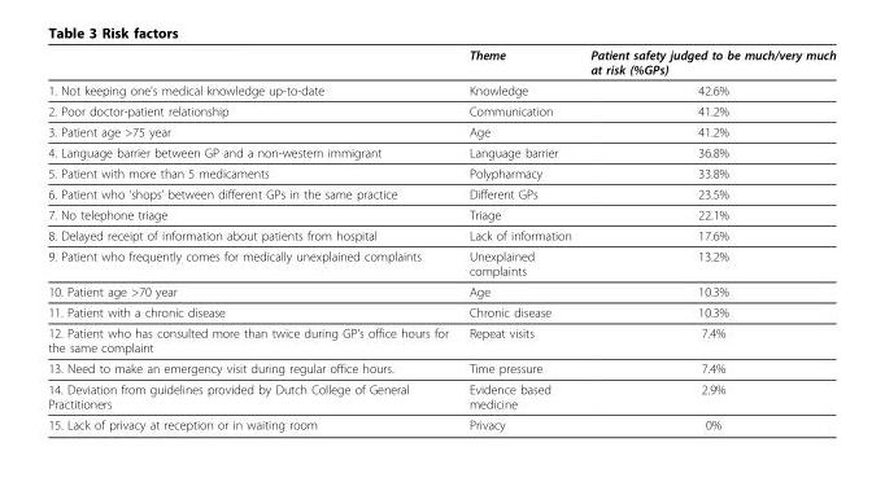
<table><thead><tr><td></td><td>Theme</td><td>Patient safety judged to be much/very much at risk (%GPs)</td></tr></thead><tbody><tr><td>1. Not keeping one’s medical knowledge up-to-date</td><td>Knowledge</td><td>42.6%</td></tr><tr><td>2. Poor doctor-patient relationship</td><td>Communication</td><td>41.2%</td></tr><tr><td>3. Patient age &gt;75 year</td><td>Age</td><td>41.2%</td></tr><tr><td>4. Language barrier between GP and a non-western immigrant</td><td>Language barrier</td><td>36.8%</td></tr><tr><td>5. Patient with more than 5 medicaments</td><td>Polypharmacy</td><td>33.8%</td></tr><tr><td>6. Patient who ‘shops’ between different GPs in the same practice</td><td>Different GPs</td><td>23.5%</td></tr><tr><td>7. No telephone triage</td><td>Triage</td><td>22.1%</td></tr><tr><td>8. Delayed receipt of information about patients from hospital</td><td>Lack of information</td><td>17.6%</td></tr><tr><td>9. Patient who frequently comes for medically unexplained complaints</td><td>Unexplained complaints</td><td>13.2%</td></tr><tr><td>10. Patient age &gt;70 year</td><td>Age</td><td>10.3%</td></tr><tr><td>11. Patient with a chronic disease</td><td>Chronic disease</td><td>10.3%</td></tr><tr><td>12. Patient who has consulted more than twice during GP’s office hours for the same complaint</td><td>Repeat visits</td><td>7.4%</td></tr><tr><td>13. Need to make an emergency visit during regular office hours.</td><td>Time pressure</td><td>7.4%</td></tr><tr><td>14. Deviation from guidelines provided by Dutch College of General Practitioners</td><td>Evidence based medicine</td><td>2.9%</td></tr><tr><td>15. Lack of privacy at reception or in waiting room</td><td>Privacy</td><td>0%</td></tr></tbody></table>